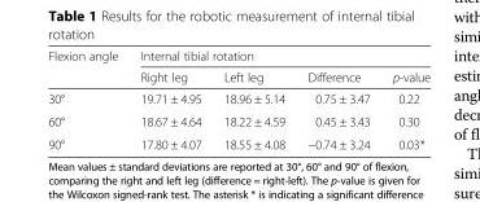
<table><thead><tr><td rowspan="2">Flexion angle</td><td colspan="4">Internal tibial rotation</td></tr><tr><td>Right leg</td><td>Left leg</td><td>Difference</td><td>p-value</td></tr></thead><tbody><tr><td>30°</td><td>19.71 ± 4.95</td><td>18.96 ± 5.14</td><td>0.75 ± 3.47</td><td>0.22</td></tr><tr><td>60°</td><td>18.67 ± 4.64</td><td>18.22 ± 4.59</td><td>0.45 ± 3.43</td><td>0.30</td></tr><tr><td>90°</td><td>17.80 ± 4.07</td><td>18.55 ± 4.08</td><td>−0.74 ± 3.24</td><td>0.03*</td></tr></tbody></table>